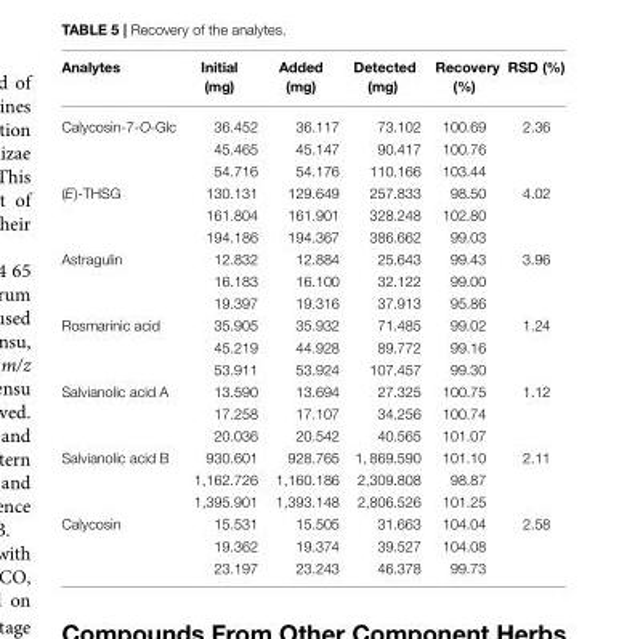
<table><thead><tr><td>Analytes</td><td>Initial (mg)</td><td>Added (mg)</td><td>Detected (mg)</td><td>Recovery (%)</td><td>RSD (%)</td></tr></thead><tbody><tr><td rowspan="3">Calycosin-7-O-Glc</td><td>36.452</td><td>36.117</td><td>73.102</td><td>100.69</td><td>2.36</td></tr><tr><td>45.465</td><td>45.147</td><td>90.417</td><td>100.76</td><td></td></tr><tr><td>54.716</td><td>54.176</td><td>110.166</td><td>103.44</td><td></td></tr><tr><td rowspan="3">(E)-THSG</td><td>130.131</td><td>129.649</td><td>257.833</td><td>98.50</td><td>4.02</td></tr><tr><td>161.804</td><td>161.901</td><td>328.248</td><td>102.80</td><td></td></tr><tr><td>194.186</td><td>194.367</td><td>386.662</td><td>99.03</td><td></td></tr><tr><td rowspan="3">Astragulin</td><td>12.832</td><td>12.884</td><td>25.643</td><td>99.43</td><td>3.96</td></tr><tr><td>16.183</td><td>16.100</td><td>32.122</td><td>99.00</td><td></td></tr><tr><td>19.397</td><td>19.316</td><td>37.913</td><td>95.86</td><td></td></tr><tr><td rowspan="3">Rosmarinic acid</td><td>35.905</td><td>35.932</td><td>71.485</td><td>99.02</td><td>1.24</td></tr><tr><td>45.219</td><td>44.928</td><td>89.772</td><td>99.16</td><td></td></tr><tr><td>53.911</td><td>53.924</td><td>107.457</td><td>99.30</td><td></td></tr><tr><td rowspan="3">Salvianolic acid A</td><td>13.590</td><td>13.694</td><td>27.325</td><td>100.75</td><td>1.12</td></tr><tr><td>17.258</td><td>17.107</td><td>34.256</td><td>100.74</td><td></td></tr><tr><td>20.036</td><td>20.542</td><td>40.565</td><td>101.07</td><td></td></tr><tr><td rowspan="3">Salvianolic acid B</td><td>930.601</td><td>928.765</td><td>1, 869.590</td><td>101.10</td><td>2.11</td></tr><tr><td>1,162.726</td><td>1,160.186</td><td>2,309.808</td><td>98.87</td><td></td></tr><tr><td>1,395.901</td><td>1,393.148</td><td>2,806.526</td><td>101.25</td><td></td></tr><tr><td rowspan="3">Calycosin</td><td>15.531</td><td>15.505</td><td>31.663</td><td>104.04</td><td>2.58</td></tr><tr><td>19.362</td><td>19.374</td><td>39.527</td><td>104.08</td><td></td></tr><tr><td>23.197</td><td>23.243</td><td>46.378</td><td>99.73</td><td></td></tr></tbody></table>